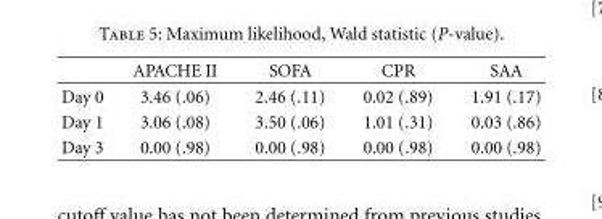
<table><thead><tr><td></td><td>APACHE II</td><td>SOFA</td><td>CPR</td><td>SAA</td></tr></thead><tbody><tr><td>Day 0</td><td>3.46 (.06)</td><td>2.46 (.11)</td><td>0.02 (.89)</td><td>1.91 (.17)</td></tr><tr><td>Day 1</td><td>3.06 (.08)</td><td>3.50 (.06)</td><td>1.01 (.31)</td><td>0.03 (.86)</td></tr><tr><td>Day 3</td><td>0.00 (.98)</td><td>0.00 (.98)</td><td>0.00 (.98)</td><td>0.00 (.98)</td></tr></tbody></table>